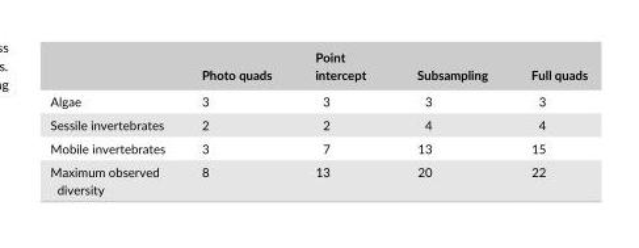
<table><thead><tr><td></td><td>Photo quads</td><td>Point intercept</td><td>Subsampling</td><td>Full quads</td></tr></thead><tbody><tr><td>Algae</td><td>3</td><td>3</td><td>3</td><td>3</td></tr><tr><td>Sessile invertebrates</td><td>2</td><td>2</td><td>4</td><td>4</td></tr><tr><td>Mobile invertebrates</td><td>3</td><td>7</td><td>13</td><td>15</td></tr><tr><td>Maximum observed diversity</td><td>8</td><td>13</td><td>20</td><td>22</td></tr></tbody></table>